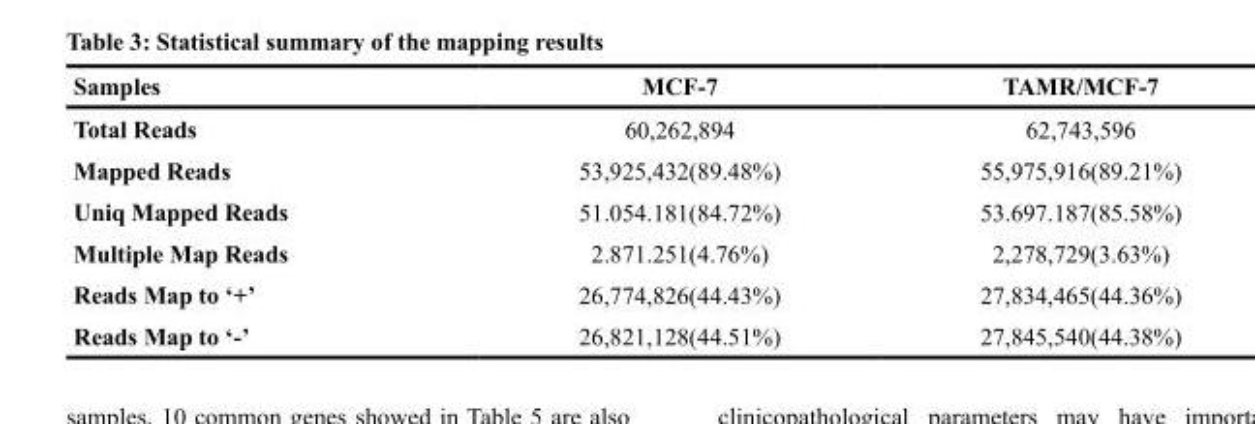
<table><thead><tr><td>Samples</td><td>MCF-7</td><td>TAMR/MCF-7</td></tr></thead><tbody><tr><td>Total Reads</td><td>60,262,894</td><td>62,743,596</td></tr><tr><td>Mapped Reads</td><td>53,925,432(89.48%)</td><td>55,975,916(89.21%)</td></tr><tr><td>Uniq Mapped Reads</td><td>51.054.181(84.72%)</td><td>53.697.187(85.58%)</td></tr><tr><td>Multiple Map Reads</td><td>2.871.251(4.76%)</td><td>2,278,729(3.63%)</td></tr><tr><td>Reads Map to ‘+’</td><td>26,774,826(44.43%)</td><td>27,834,465(44.36%)</td></tr><tr><td>Reads Map to ‘-’</td><td>26,821,128(44.51%)</td><td>27,845,540(44.38%)</td></tr></tbody></table>